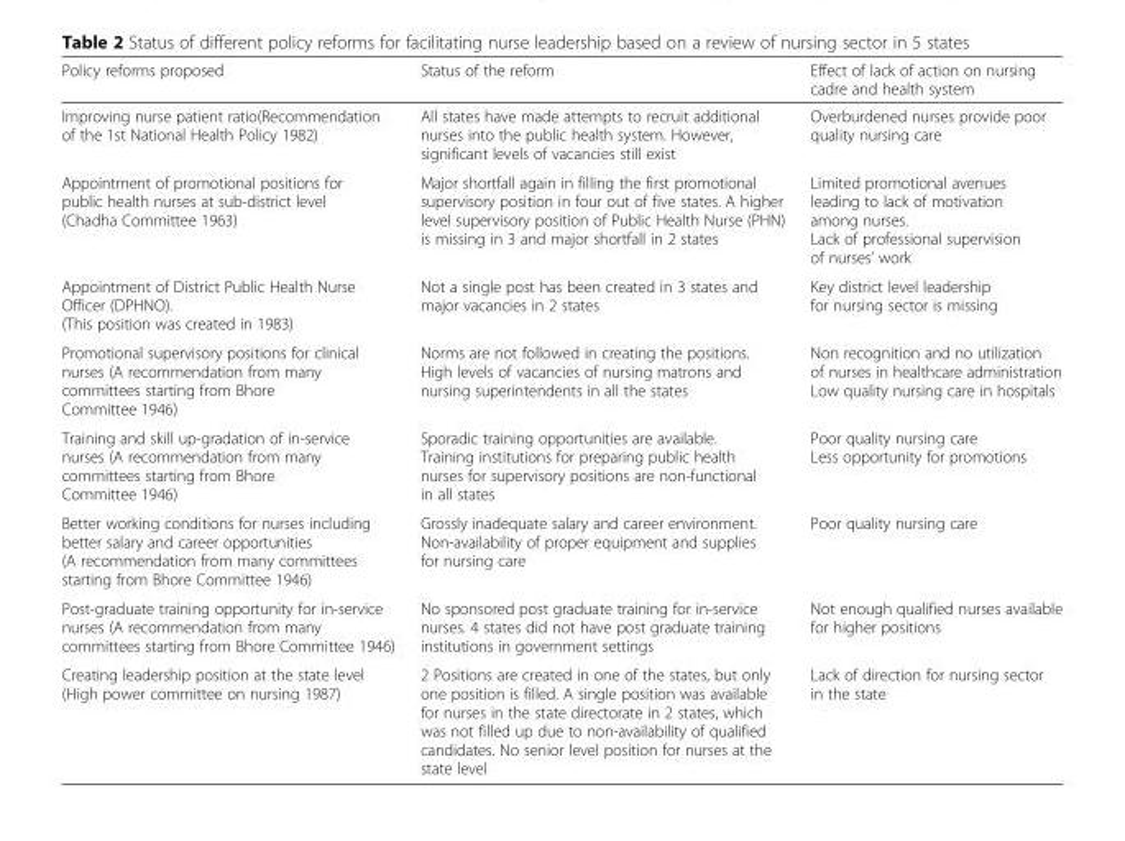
<table><thead><tr><td>Policy reforms proposed</td><td>Status of the reform</td><td>Effect of lack of action on nursing cadre and health system</td></tr></thead><tbody><tr><td>Improving nurse patient ratio(Recommendation of the 1st National Health Policy 1982)</td><td>All states have made attempts to recruit additional nurses into the public health system. However, significant levels of vacancies still exist</td><td>Overburdened nurses provide poor quality nursing care</td></tr><tr><td>Appointment of promotional positions for public health nurses at sub-district level (Chadha Committee 1963)</td><td>Major shortfall again in filling the first promotional supervisory position in four out of five states. A higher level supervisory position of Public Health Nurse (PHN) is missing in 3 and major shortfall in 2 states</td><td>Limited promotional avenues leading to lack of motivation among nurses. Lack of professional supervision of nurses’ work</td></tr><tr><td>Appointment of District Public Health Nurse Officer (DPHNO). (This position was created in 1983)</td><td>Not a single post has been created in 3 states and major vacancies in 2 states</td><td>Key district level leadership for nursing sector is missing</td></tr><tr><td>Promotional supervisory positions for clinical nurses (A recommendation from many committees starting from Bhore Committee 1946)</td><td>Norms are not followed in creating the positions. High levels of vacancies of nursing matrons and nursing superintendents in all the states</td><td>Non recognition and no utilization of nurses in healthcare administration Low quality nursing care in hospitals</td></tr><tr><td>Training and skill up-gradation of in-service nurses (A recommendation from many committees starting from Bhore Committee 1946)</td><td>Sporadic training opportunities are available. Training institutions for preparing public health nurses for supervisory positions are non-functional in all states</td><td>Poor quality nursing care Less opportunity for promotions</td></tr><tr><td>Better working conditions for nurses including better salary and career opportunities (A recommendation from many committees starting from Bhore Committee 1946)</td><td>Grossly inadequate salary and career environment. Non-availability of proper equipment and supplies for nursing care</td><td>Poor quality nursing care</td></tr><tr><td>Post-graduate training opportunity for in-service nurses (A recommendation from many committees starting from Bhore Committee 1946)</td><td>No sponsored post graduate training for in-service nurses. 4 states did not have post graduate training institutions in government settings</td><td>Not enough qualified nurses available for higher positions</td></tr><tr><td>Creating leadership position at the state level (High power committee on nursing 1987)</td><td>2 Positions are created in one of the states, but only one position is filled. A single position was available for nurses in the state directorate in 2 states, which was not filled up due to non-availability of qualified candidates. No senior level position for nurses at the state level</td><td>Lack of direction for nursing sector in the state</td></tr></tbody></table>